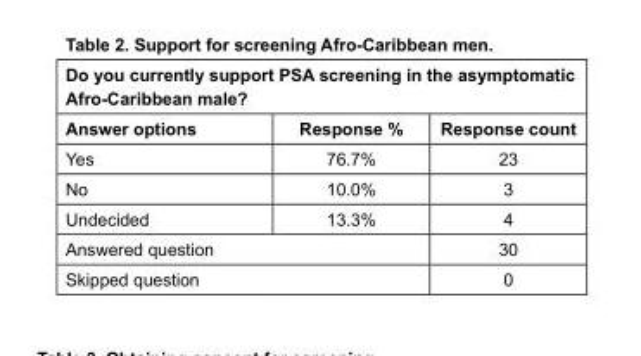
<table><thead><tr><td colspan="3">Do you currently support PSA screening in the asymptomatic Afro-Caribbean male?</td></tr><tr><td>Answer options</td><td>Response %</td><td>Response count</td></tr></thead><tbody><tr><td>Yes</td><td>76.7%</td><td>23</td></tr><tr><td>No</td><td>10.0%</td><td>3</td></tr><tr><td>Undecided</td><td>13.3%</td><td>4</td></tr><tr><td colspan="2">Answered question</td><td>30</td></tr><tr><td colspan="2">Skipped question</td><td>0</td></tr></tbody></table>